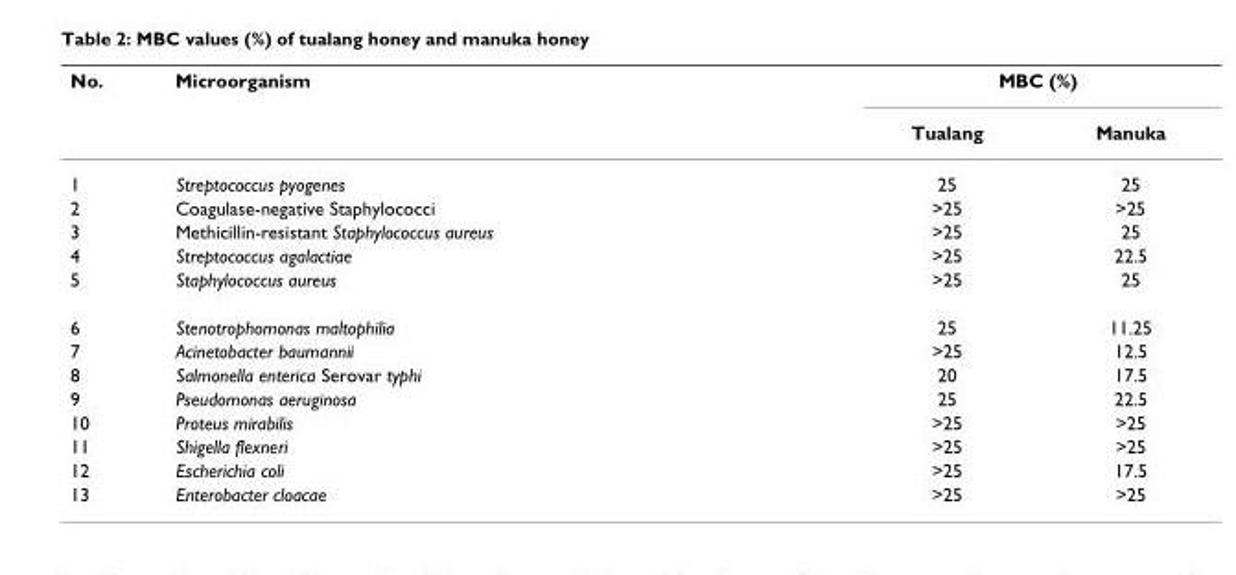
<table><thead><tr><td rowspan="2">No.</td><td rowspan="2">Microorganism</td><td colspan="2">MBC (%)</td></tr><tr><td>Tualang</td><td>Manuka</td></tr></thead><tbody><tr><td>1</td><td>Streptococcus pyogenes</td><td>25</td><td>25</td></tr><tr><td>2</td><td>Coagulase-negative Staphylococci</td><td>&gt;25</td><td>&gt;25</td></tr><tr><td>3</td><td>Methicillin-resistant Staphylococcus aureus</td><td>&gt;25</td><td>25</td></tr><tr><td>4</td><td>Streptococcus agalactiae</td><td>&gt;25</td><td>22.5</td></tr><tr><td>5</td><td>Staphylococcus aureus</td><td>&gt;25</td><td>25</td></tr><tr><td>6</td><td>Stenotrophomonas maltophilia</td><td>25</td><td>11.25</td></tr><tr><td>7</td><td>Acinetobacter baumannii</td><td>&gt;25</td><td>12.5</td></tr><tr><td>8</td><td>Salmonella enterica Serovar typhi</td><td>20</td><td>17.5</td></tr><tr><td>9</td><td>Pseudomonas aeruginosa</td><td>25</td><td>22.5</td></tr><tr><td>10</td><td>Proteus mirabilis</td><td>&gt;25</td><td>&gt;25</td></tr><tr><td>11</td><td>Shigella flexneri</td><td>&gt;25</td><td>&gt;25</td></tr><tr><td>12</td><td>Escherichia coli</td><td>&gt;25</td><td>17.5</td></tr><tr><td>13</td><td>Enterobacter cloacae</td><td>&gt;25</td><td>&gt;25</td></tr></tbody></table>